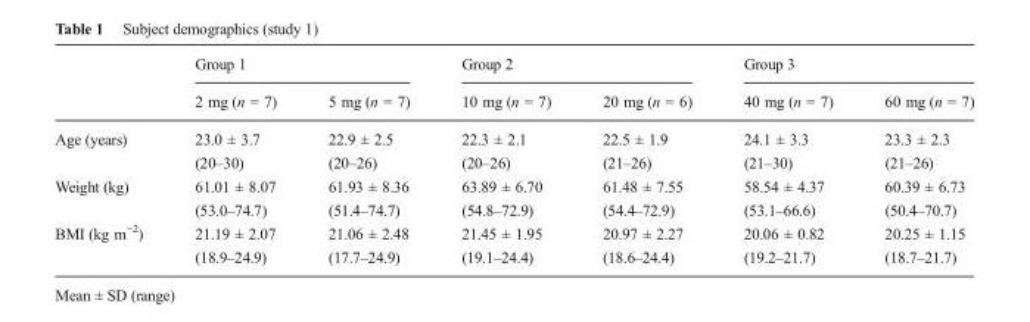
<table><thead><tr><td rowspan="2"></td><td colspan="2">Group 1</td><td colspan="2">Group 2</td><td colspan="2">Group 3</td></tr><tr><td>2 mg (n = 7)</td><td>5 mg (n = 7)</td><td>10 mg (n = 7)</td><td>20 mg (n = 6)</td><td>40 mg (n = 7)</td><td>60 mg (n = 7)</td></tr></thead><tbody><tr><td rowspan="2">Age (years)</td><td>23.0 ± 3.7</td><td>22.9 ± 2.5</td><td>22.3 ± 2.1</td><td>22.5 ± 1.9</td><td>24.1 ± 3.3</td><td>23.3 ± 2.3</td></tr><tr><td>(20–30)</td><td>(20–26)</td><td>(20–26)</td><td>(21–26)</td><td>(21–30)</td><td>(21–26)</td></tr><tr><td rowspan="2">Weight (kg)</td><td>61.01 ± 8.07</td><td>61.93 ± 8.36</td><td>63.89 ± 6.70</td><td>61.48 ± 7.55</td><td>58.54 ± 4.37</td><td>60.39 ± 6.73</td></tr><tr><td>(53.0–74.7)</td><td>(51.4–74.7)</td><td>(54.8–72.9)</td><td>(54.4–72.9)</td><td>(53.1–66.6)</td><td>(50.4–70.7)</td></tr><tr><td rowspan="2">BMI (kg m<sup>−2</sup>)</td><td>21.19 ± 2.07</td><td>21.06 ± 2.48</td><td>21.45 ± 1.95</td><td>20.97 ± 2.27</td><td>20.06 ± 0.82</td><td>20.25 ± 1.15</td></tr><tr><td>(18.9–24.9)</td><td>(17.7–24.9)</td><td>(19.1–24.4)</td><td>(18.6–24.4)</td><td>(19.2–21.7)</td><td>(18.7–21.7)</td></tr></tbody></table>